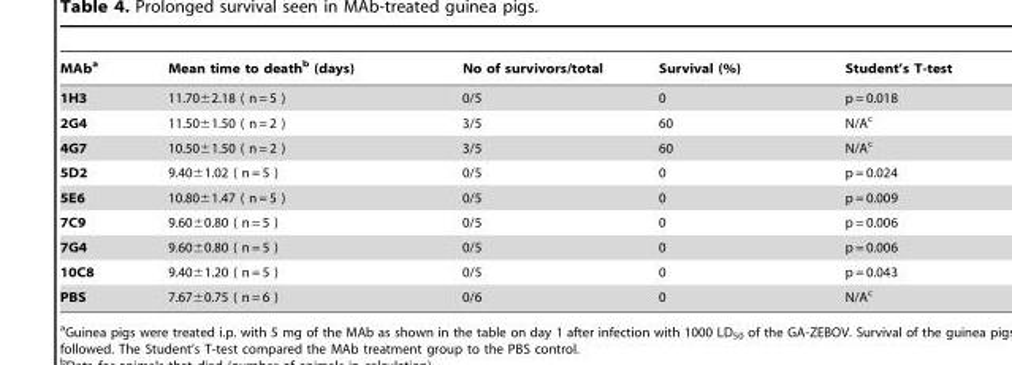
<table><thead><tr><td>MAb<sup>a</sup></td><td>Mean time to death<sup>b</sup> (days)</td><td>No of survivors/total</td><td>Survival (%)</td><td>Student’s T-test</td></tr></thead><tbody><tr><td>1H3</td><td>11.70±2.18 ( n = 5 )</td><td>0/5</td><td>0</td><td>p = 0.018</td></tr><tr><td>2G4</td><td>11.50±1.50 ( n = 2 )</td><td>3/5</td><td>60</td><td>N/A<sup>c</sup></td></tr><tr><td>4G7</td><td>10.50±1.50 ( n = 2 )</td><td>3/5</td><td>60</td><td>N/A<sup>c</sup></td></tr><tr><td>5D2</td><td>9.40±1.02 ( n = 5 )</td><td>0/5</td><td>0</td><td>p = 0.024</td></tr><tr><td>5E6</td><td>10.80±1.47 ( n = 5 )</td><td>0/5</td><td>0</td><td>p = 0.009</td></tr><tr><td>7C9</td><td>9.60±0.80 ( n = 5 )</td><td>0/5</td><td>0</td><td>p = 0.006</td></tr><tr><td>7G4</td><td>9.60±0.80 ( n = 5 )</td><td>0/5</td><td>0</td><td>p = 0.006</td></tr><tr><td>10C8</td><td>9.40±1.20 ( n = 5 )</td><td>0/5</td><td>0</td><td>p = 0.043</td></tr><tr><td>PBS</td><td>7.67±0.75 ( n = 6 )</td><td>0/6</td><td>0</td><td>N/A<sup>c</sup></td></tr></tbody></table>